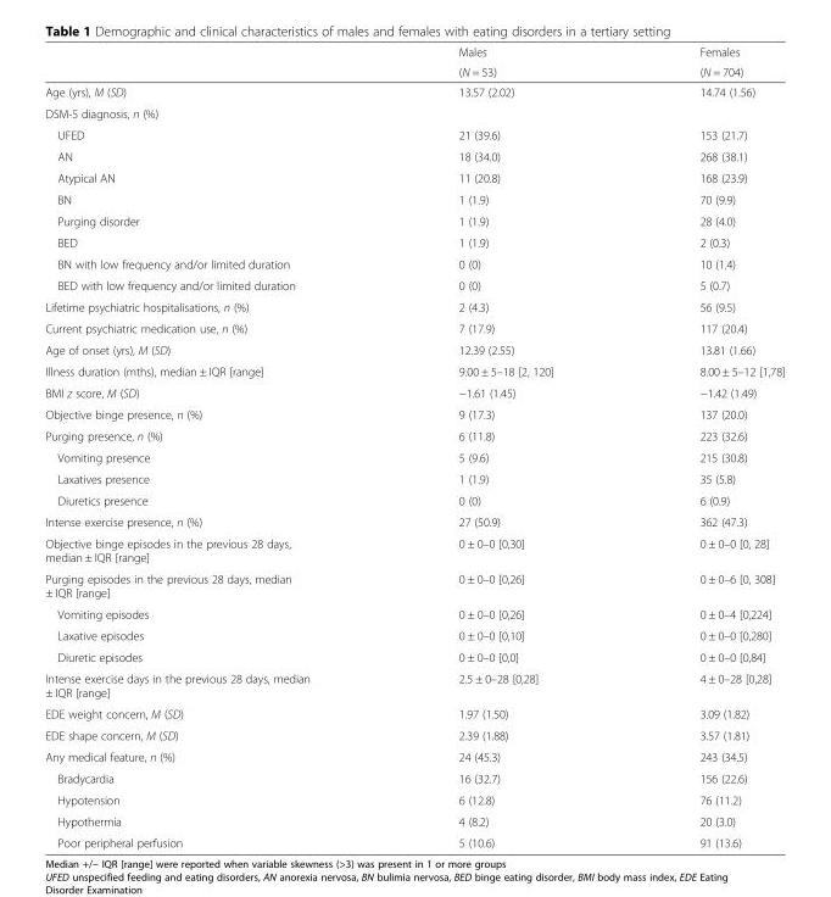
<table><thead><tr><td rowspan="2"></td><td rowspan="2">Males (N = 53)</td><td rowspan="2">Females (N = 704)</td></tr><tr></tr></thead><tbody><tr><td>Age (yrs), M (SD)</td><td>13.57 (2.02)</td><td>14.74 (1.56)</td></tr><tr><td colspan="3">DSM-5 diagnosis, n (%)</td></tr><tr><td>UFED</td><td>21 (39.6)</td><td>153 (21.7)</td></tr><tr><td>AN</td><td>18 (34.0)</td><td>268 (38.1)</td></tr><tr><td>Atypical AN</td><td>11 (20.8)</td><td>168 (23.9)</td></tr><tr><td>BN</td><td>1 (1.9)</td><td>70 (9.9)</td></tr><tr><td>Purging disorder</td><td>1 (1.9)</td><td>28 (4.0)</td></tr><tr><td>BED</td><td>1 (1.9)</td><td>2 (0.3)</td></tr><tr><td>BN with low frequency and/or limited duration</td><td>0 (0)</td><td>10 (1.4)</td></tr><tr><td>BED with low frequency and/or limited duration</td><td>0 (0)</td><td>5 (0.7)</td></tr><tr><td>Lifetime psychiatric hospitalisations, n (%)</td><td>2 (4.3)</td><td>56 (9.5)</td></tr><tr><td>Current psychiatric medication use, n (%)</td><td>7 (17.9)</td><td>117 (20.4)</td></tr><tr><td>Age of onset (yrs), M (SD)</td><td>12.39 (2.55)</td><td>13.81 (1.66)</td></tr><tr><td>Illness duration (mths), median ± IQR [range]</td><td>9.00 ± 5–18 [2, 120]</td><td>8.00 ± 5–12 [1,78]</td></tr><tr><td>BMI z score, M (SD)</td><td>−1.61 (1.45)</td><td>−1.42 (1.49)</td></tr><tr><td>Objective binge presence, n (%)</td><td>9 (17.3)</td><td>137 (20.0)</td></tr><tr><td>Purging presence, n (%)</td><td>6 (11.8)</td><td>223 (32.6)</td></tr><tr><td>Vomiting presence</td><td>5 (9.6)</td><td>215 (30.8)</td></tr><tr><td>Laxatives presence</td><td>1 (1.9)</td><td>35 (5.8)</td></tr><tr><td>Diuretics presence</td><td>0 (0)</td><td>6 (0.9)</td></tr><tr><td>Intense exercise presence, n (%)</td><td>27 (50.9)</td><td>362 (47.3)</td></tr><tr><td>Objective binge episodes in the previous 28 days, median ± IQR [range]</td><td>0 ± 0–0 [0,30]</td><td>0 ± 0–0 [0, 28]</td></tr><tr><td>Purging episodes in the previous 28 days, median ± IQR [range]</td><td>0 ± 0–0 [0,26]</td><td>0 ± 0–6 [0, 308]</td></tr><tr><td>Vomiting episodes</td><td>0 ± 0–0 [0,26]</td><td>0 ± 0–4 [0,224]</td></tr><tr><td>Laxative episodes</td><td>0 ± 0–0 [0,10]</td><td>0 ± 0–0 [0,280]</td></tr><tr><td>Diuretic episodes</td><td>0 ± 0–0 [0,0]</td><td>0 ± 0–0 [0,84]</td></tr><tr><td>Intense exercise days in the previous 28 days, median ± IQR [range]</td><td>2.5 ± 0–28 [0,28]</td><td>4 ± 0–28 [0,28]</td></tr><tr><td>EDE weight concern, M (SD)</td><td>1.97 (1.50)</td><td>3.09 (1.82)</td></tr><tr><td>EDE shape concern, M (SD)</td><td>2.39 (1.88)</td><td>3.57 (1.81)</td></tr><tr><td>Any medical feature, n (%)</td><td>24 (45.3)</td><td>243 (34.5)</td></tr><tr><td>Bradycardia</td><td>16 (32.7)</td><td>156 (22.6)</td></tr><tr><td>Hypotension</td><td>6 (12.8)</td><td>76 (11.2)</td></tr><tr><td>Hypothermia</td><td>4 (8.2)</td><td>20 (3.0)</td></tr><tr><td>Poor peripheral perfusion</td><td>5 (10.6)</td><td>91 (13.6)</td></tr></tbody></table>